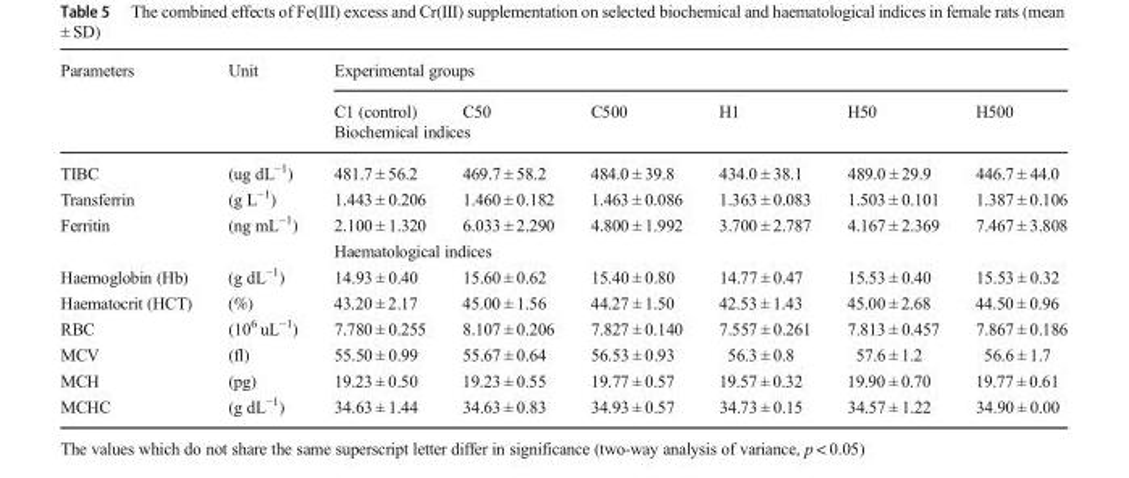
<table><thead><tr><td rowspan="3">Parameters</td><td rowspan="3">Unit</td><td colspan="6">Experimental groups</td></tr><tr><td>C1 (control)</td><td>C50</td><td>C500</td><td>H1</td><td>H50</td><td>H500</td></tr><tr><td colspan="6">Biochemical indices</td></tr></thead><tbody><tr><td>TIBC</td><td>(ug dL<sup>−1</sup>)</td><td>481.7 ± 56.2</td><td>469.7 ± 58.2</td><td>484.0 ± 39.8</td><td>434.0 ± 38.1</td><td>489.0 ± 29.9</td><td>446.7 ± 44.0</td></tr><tr><td>Transferrin</td><td>(g L<sup>−1</sup>)</td><td>1.443 ± 0.206</td><td>1.460 ± 0.182</td><td>1.463 ± 0.086</td><td>1.363 ± 0.083</td><td>1.503 ± 0.101</td><td>1.387 ± 0.106</td></tr><tr><td>Ferritin</td><td>(ng mL<sup>−1</sup>)</td><td>2.100 ± 1.320</td><td>6.033 ± 2.290</td><td>4.800 ± 1.992</td><td>3.700 ± 2.787</td><td>4.167 ± 2.369</td><td>7.467 ± 3.808</td></tr><tr><td colspan="2"></td><td colspan="6">Haematological indices</td></tr><tr><td>Haemoglobin (Hb)</td><td>(g dL<sup>−1</sup>)</td><td>14.93 ± 0.40</td><td>15.60 ± 0.62</td><td>15.40 ± 0.80</td><td>14.77 ± 0.47</td><td>15.53 ± 0.40</td><td>15.53 ± 0.32</td></tr><tr><td>Haematocrit (HCT)</td><td>(%)</td><td>43.20 ± 2.17</td><td>45.00 ± 1.56</td><td>44.27 ± 1.50</td><td>42.53 ± 1.43</td><td>45.00 ± 2.68</td><td>44.50 ± 0.96</td></tr><tr><td>RBC</td><td>(10<sup>6</sup> uL<sup>−1</sup>)</td><td>7.780 ± 0.255</td><td>8.107 ± 0.206</td><td>7.827 ± 0.140</td><td>7.557 ± 0.261</td><td>7.813 ± 0.457</td><td>7.867 ± 0.186</td></tr><tr><td>MCV</td><td>(fl)</td><td>55.50 ± 0.99</td><td>55.67 ± 0.64</td><td>56.53 ± 0.93</td><td>56.3 ± 0.8</td><td>57.6 ± 1.2</td><td>56.6 ± 1.7</td></tr><tr><td>MCH</td><td>(pg)</td><td>19.23 ± 0.50</td><td>19.23 ± 0.55</td><td>19.77 ± 0.57</td><td>19.57 ± 0.32</td><td>19.90 ± 0.70</td><td>19.77 ± 0.61</td></tr><tr><td>MCHC</td><td>(g dL<sup>−1</sup>)</td><td>34.63 ± 1.44</td><td>34.63 ± 0.83</td><td>34.93 ± 0.57</td><td>34.73 ± 0.15</td><td>34.57 ± 1.22</td><td>34.90 ± 0.00</td></tr></tbody></table>